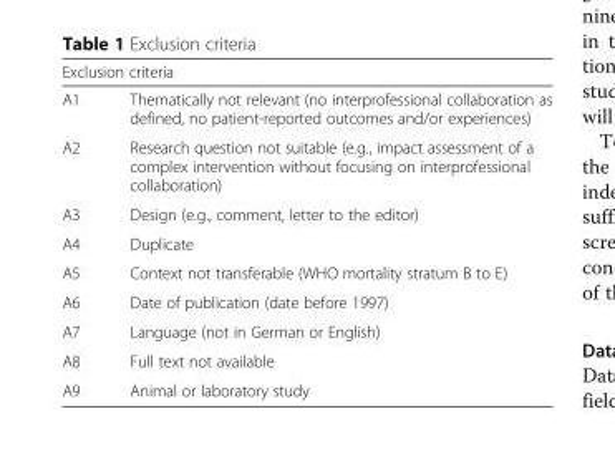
<table><thead><tr><td colspan="2">Exclusion criteria</td></tr><tr><td>A1</td><td>Thematically not relevant (no interprofessional collaboration as defined, no patient-reported outcomes and/or experiences)</td></tr></thead><tbody><tr><td>A2</td><td>Research question not suitable (e.g., impact assessment of a complex intervention without focusing on interprofessional collaboration)</td></tr><tr><td>A3</td><td>Design (e.g., comment, letter to the editor)</td></tr><tr><td>A4</td><td>Duplicate</td></tr><tr><td>A5</td><td>Context not transferable (WHO mortality stratum B to E)</td></tr><tr><td>A6</td><td>Date of publication (date before 1997)</td></tr><tr><td>A7</td><td>Language (not in German or English)</td></tr><tr><td>A8</td><td>Full text not available</td></tr><tr><td>A9</td><td>Animal or laboratory study</td></tr></tbody></table>